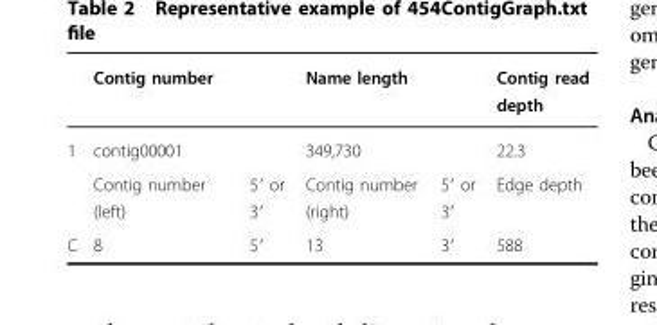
<table><thead><tr><td rowspan="2">1</td><td colspan="2">Contig number</td><td colspan="2">Name length</td><td rowspan="2">Contig read depth 22.3</td></tr><tr><td>contig00001</td><td></td><td>349,730</td><td></td></tr></thead><tbody><tr><td></td><td>Contig number (left)</td><td>5′ or 3′</td><td>Contig number (right)</td><td>5′ or 3′</td><td>Edge depth</td></tr><tr><td>C</td><td>8</td><td>5′</td><td>13</td><td>3′</td><td>588</td></tr></tbody></table>